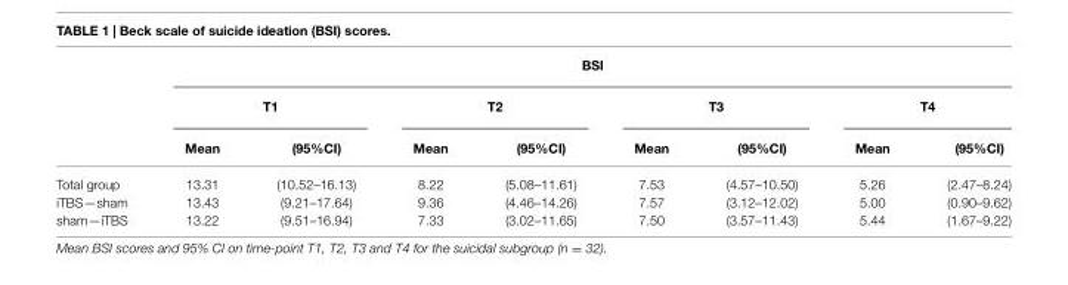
<table><thead><tr><td rowspan="3"></td><td colspan="8">BSI</td></tr><tr><td colspan="2">T1</td><td colspan="2">T2</td><td colspan="2">T3</td><td colspan="2">T4</td></tr><tr><td>Mean</td><td>(95%CI)</td><td>Mean</td><td>(95%CI)</td><td>Mean</td><td>(95%CI)</td><td>Mean</td><td>(95%CI)</td></tr></thead><tbody><tr><td>Total group</td><td>13.31</td><td>(10.52–16.13)</td><td>8.22</td><td>(5.08–11.61)</td><td>7.53</td><td>(4.57–10.50)</td><td>5.26</td><td>(2.47–8.24)</td></tr><tr><td>iTBS—sham</td><td>13.43</td><td>(9.21–17.64)</td><td>9.36</td><td>(4.46–14.26)</td><td>7.57</td><td>(3.12–12.02)</td><td>5.00</td><td>(0.90–9.62)</td></tr><tr><td>sham—iTBS</td><td>13.22</td><td>(9.51–16.94)</td><td>7.33</td><td>(3.02–11.65)</td><td>7.50</td><td>(3.57–11.43)</td><td>5.44</td><td>(1.67–9.22)</td></tr></tbody></table>